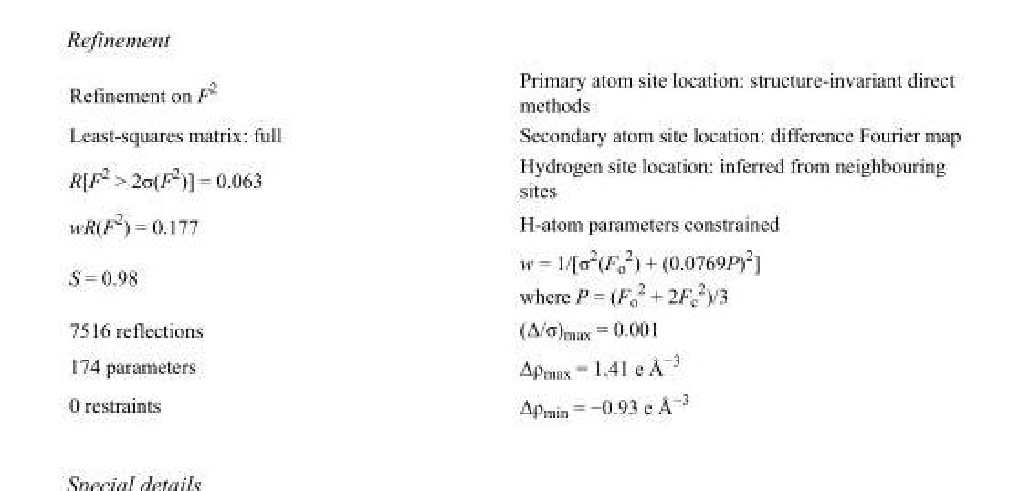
<table><tbody><tr><td>Refinement on F<sup>2</sup></td><td>Primary atom site location: structure-invariant direct methods</td></tr><tr><td>Least-squares matrix: full</td><td>Secondary atom site location: difference Fourier map</td></tr><tr><td>R[F<sup>2</sup> &gt; 2σ(F<sup>2</sup>)] = 0.063</td><td>Hydrogen site location: inferred from neighbouring sites</td></tr><tr><td>wR(F<sup>2</sup>) = 0.177</td><td>H-atom parameters constrained</td></tr><tr><td>S = 0.98</td><td>w = 1/[σ<sup>2</sup>(F<sub>o</sub> <sup>2</sup>) + (0.0769P)<sup>2</sup>] where P = (F<sub>o</sub> <sup>2</sup> + 2F<sub>c</sub> <sup>2</sup>)/3</td></tr><tr><td>7516 reflections</td><td>(Δ/σ)<sub>max</sub> = 0.001</td></tr><tr><td>174 parameters</td><td>Δρ<sub>max</sub> = 1.41 e Å<sup>−3</sup></td></tr><tr><td>0 restraints</td><td>Δρ<sub>min</sub> = −0.93 e Å<sup>−3</sup></td></tr></tbody></table>